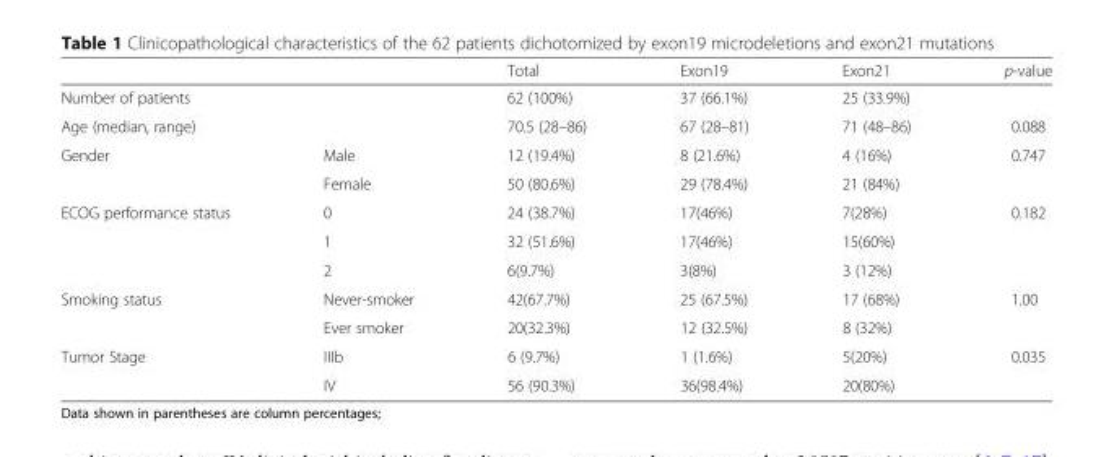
<table><thead><tr><td></td><td></td><td>Total</td><td>Exon19</td><td>Exon21</td><td>p-value</td></tr></thead><tbody><tr><td colspan="2">Number of patients</td><td>62 (100%)</td><td>37 (66.1%)</td><td>25 (33.9%)</td><td></td></tr><tr><td colspan="2">Age (median, range)</td><td>70.5 (28–86)</td><td>67 (28–81)</td><td>71 (48–86)</td><td>0.088</td></tr><tr><td rowspan="2">Gender</td><td>Male</td><td>12 (19.4%)</td><td>8 (21.6%)</td><td>4 (16%)</td><td rowspan="2">0.747</td></tr><tr><td>Female</td><td>50 (80.6%)</td><td>29 (78.4%)</td><td>21 (84%)</td></tr><tr><td rowspan="3">ECOG performance status</td><td>0</td><td>24 (38.7%)</td><td>17(46%)</td><td>7(28%)</td><td rowspan="3">0.182</td></tr><tr><td>1</td><td>32 (51.6%)</td><td>17(46%)</td><td>15(60%)</td></tr><tr><td>2</td><td>6(9.7%)</td><td>3(8%)</td><td>3 (12%)</td></tr><tr><td rowspan="2">Smoking status</td><td>Never-smoker</td><td>42(67.7%)</td><td>25 (67.5%)</td><td>17 (68%)</td><td rowspan="2">1.00</td></tr><tr><td>Ever smoker</td><td>20(32.3%)</td><td>12 (32.5%)</td><td>8 (32%)</td></tr><tr><td rowspan="2">Tumor Stage</td><td>IIIb</td><td>6 (9.7%)</td><td>1 (1.6%)</td><td>5(20%)</td><td rowspan="2">0.035</td></tr><tr><td>IV</td><td>56 (90.3%)</td><td>36(98.4%)</td><td>20(80%)</td></tr></tbody></table>